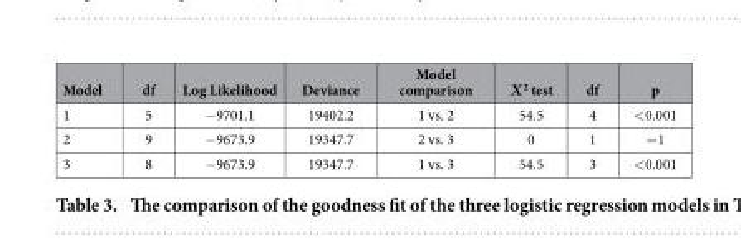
<table><thead><tr><td>Model</td><td>df</td><td>Log Likelihood</td><td>Deviance</td><td>Model comparison</td><td>Χ<sup>2</sup> test</td><td>df</td><td>p</td></tr></thead><tbody><tr><td>1</td><td>5</td><td>− 9701.1</td><td>19402.2</td><td>1 vs. 2</td><td>54.5</td><td>4</td><td>&lt; 0.001</td></tr><tr><td>2</td><td>9</td><td>− 9673.9</td><td>19347.7</td><td>2 vs. 3</td><td>0</td><td>1</td><td>= 1</td></tr><tr><td>3</td><td>8</td><td>− 9673.9</td><td>19347.7</td><td>1 vs. 3</td><td>54.5</td><td>3</td><td>&lt; 0.001</td></tr></tbody></table>